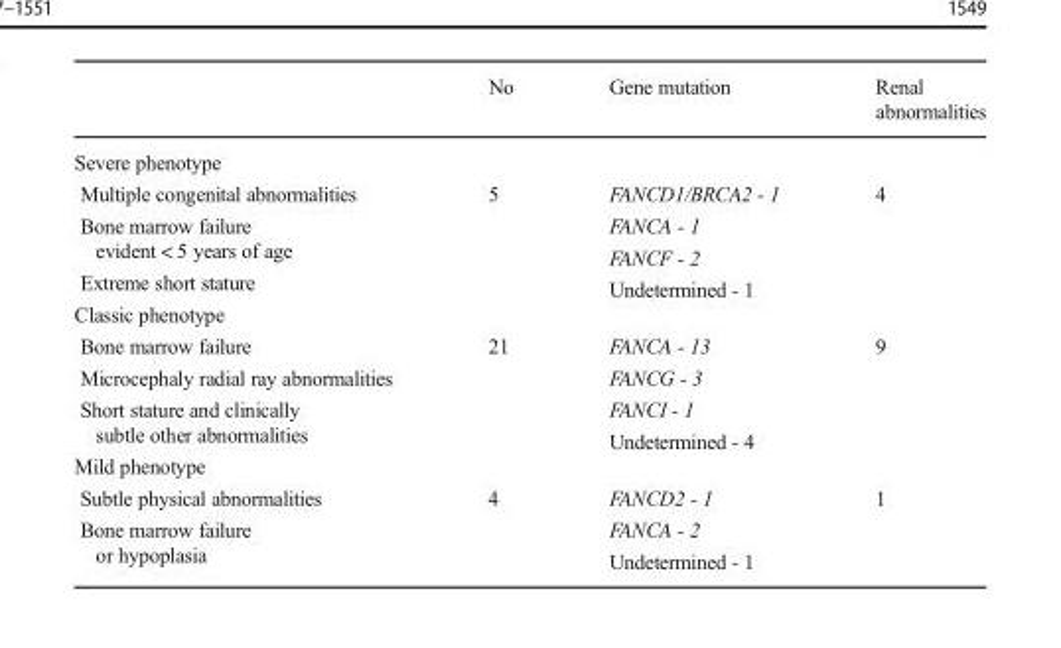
<table><thead><tr><td></td><td>No</td><td>Gene mutation</td><td>Renal abnormalities</td></tr></thead><tbody><tr><td colspan="4">Severe phenotype</td></tr><tr><td>Multiple congenital abnormalities Bone marrow failure evident &lt; 5 years of age Extreme short stature</td><td>5</td><td>FANCD1/BRCA2 - 1 FANCA - 1 FANCF - 2 Undetermined - 1</td><td>4</td></tr><tr><td colspan="4">Classic phenotype</td></tr><tr><td>Bone marrow failure Microcephaly radial ray abnormalities Short stature and clinically subtle other abnormalities</td><td>21</td><td>FANCA - 13 FANCG - 3 FANCI - 1 Undetermined - 4</td><td>9</td></tr><tr><td colspan="4">Mild phenotype</td></tr><tr><td>Subtle physical abnormalities Bone marrow failure or hypoplasia</td><td>4</td><td>FANCD2 - 1 FANCA - 2 Undetermined - 1</td><td>1</td></tr></tbody></table>